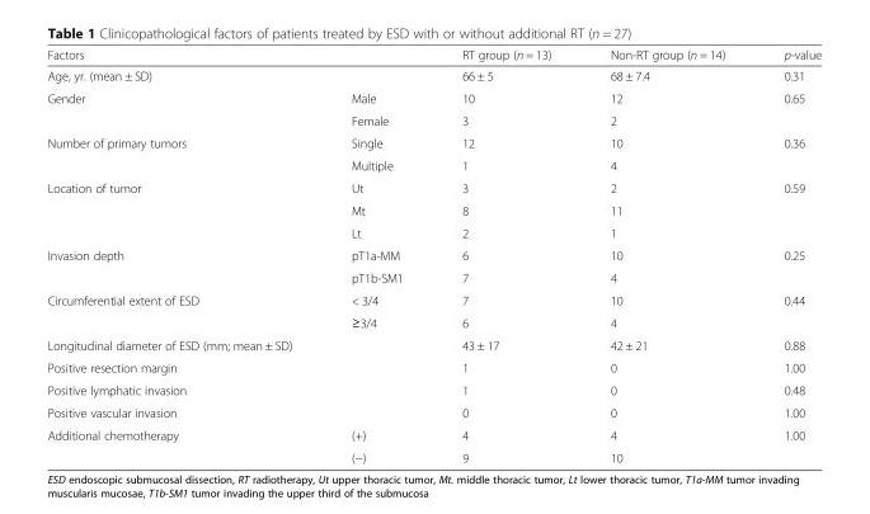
<table><thead><tr><td>Factors</td><td></td><td>RT group (n = 13)</td><td>Non-RT group (n = 14)</td><td>p-value</td></tr></thead><tbody><tr><td>Age, yr. (mean ± SD)</td><td></td><td>66 ± 5</td><td>68 ± 7.4</td><td>0.31</td></tr><tr><td rowspan="2">Gender</td><td>Male</td><td>10</td><td>12</td><td>0.65</td></tr><tr><td>Female</td><td>3</td><td>2</td><td></td></tr><tr><td rowspan="2">Number of primary tumors</td><td>Single</td><td>12</td><td>10</td><td>0.36</td></tr><tr><td>Multiple</td><td>1</td><td>4</td><td></td></tr><tr><td rowspan="3">Location of tumor</td><td>Ut</td><td>3</td><td>2</td><td>0.59</td></tr><tr><td>Mt</td><td>8</td><td>11</td><td></td></tr><tr><td>Lt</td><td>2</td><td>1</td><td></td></tr><tr><td rowspan="2">Invasion depth</td><td>pT1a-MM</td><td>6</td><td>10</td><td>0.25</td></tr><tr><td>pT1b-SM1</td><td>7</td><td>4</td><td></td></tr><tr><td rowspan="2">Circumferential extent of ESD</td><td>&lt; 3/4</td><td>7</td><td>10</td><td>0.44</td></tr><tr><td>≥3/4</td><td>6</td><td>4</td><td></td></tr><tr><td>Longitudinal diameter of ESD (mm; mean ± SD)</td><td></td><td>43 ± 17</td><td>42 ± 21</td><td>0.88</td></tr><tr><td>Positive resection margin</td><td></td><td>1</td><td>0</td><td>1.00</td></tr><tr><td>Positive lymphatic invasion</td><td></td><td>1</td><td>0</td><td>0.48</td></tr><tr><td>Positive vascular invasion</td><td></td><td>0</td><td>0</td><td>1.00</td></tr><tr><td rowspan="2">Additional chemotherapy</td><td>(+)</td><td>4</td><td>4</td><td>1.00</td></tr><tr><td>(−)</td><td>9</td><td>10</td><td></td></tr></tbody></table>